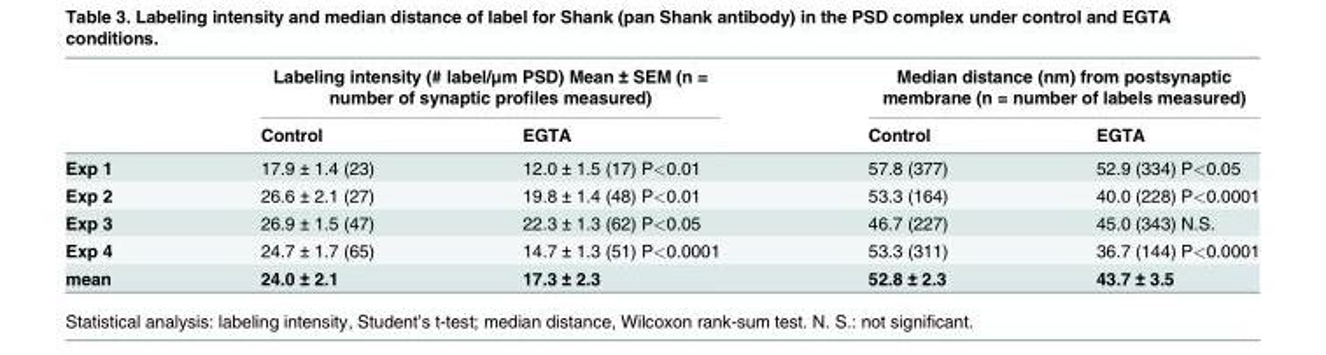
<table><thead><tr><td rowspan="2"></td><td colspan="2">Labeling intensity (# label/μm PSD) Mean ± SEM (n = number of synaptic profiles measured)</td><td colspan="2">Median distance (nm) from postsynaptic membrane (n = number of labels measured)</td></tr><tr><td>Control</td><td>EGTA</td><td>Control</td><td>EGTA</td></tr></thead><tbody><tr><td>Exp 1</td><td>17.9 ± 1.4 (23)</td><td>12.0 ± 1.5 (17) P&lt;0.01</td><td>57.8 (377)</td><td>52.9 (334) P&lt;0.05</td></tr><tr><td>Exp 2</td><td>26.6 ± 2.1 (27)</td><td>19.8 ± 1.4 (48) P&lt;0.01</td><td>53.3 (164)</td><td>40.0 (228) P&lt;0.0001</td></tr><tr><td>Exp 3</td><td>26.9 ± 1.5 (47)</td><td>22.3 ± 1.3 (62) P&lt;0.05</td><td>46.7 (227)</td><td>45.0 (343) N.S.</td></tr><tr><td>Exp 4</td><td>24.7 ± 1.7 (65)</td><td>14.7 ± 1.3 (51) P&lt;0.0001</td><td>53.3 (311)</td><td>36.7 (144) P&lt;0.0001</td></tr><tr><td>mean</td><td>24.0 ± 2.1</td><td>17.3 ± 2.3</td><td>52.8 ± 2.3</td><td>43.7 ± 3.5</td></tr></tbody></table>